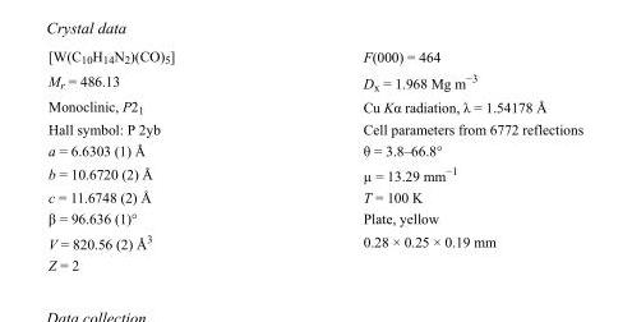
<table><tbody><tr><td>[W(C<sub>10</sub>H<sub>14</sub>N<sub>2</sub>)(CO)<sub>5</sub>]</td><td>F(000) = 464</td></tr><tr><td>M<sub>r</sub> = 486.13</td><td>D<sub>x</sub> = 1.968 Mg m<sup>−3</sup></td></tr><tr><td>Monoclinic, P2<sub>1</sub></td><td>Cu Kα radiation, λ = 1.54178 Å</td></tr><tr><td>Hall symbol: P 2yb</td><td>Cell parameters from 6772 reflections</td></tr><tr><td>a = 6.6303 (1) Å</td><td>θ = 3.8–66.8°</td></tr><tr><td>b = 10.6720 (2) Å</td><td>µ = 13.29 mm<sup>−1</sup></td></tr><tr><td>c = 11.6748 (2) Å</td><td>T = 100 K</td></tr><tr><td>β = 96.636 (1)°</td><td>Plate, yellow</td></tr><tr><td>V = 820.56 (2) Å<sup>3</sup></td><td>0.28 × 0.25 × 0.19 mm</td></tr><tr><td>Z = 2</td><td></td></tr></tbody></table>